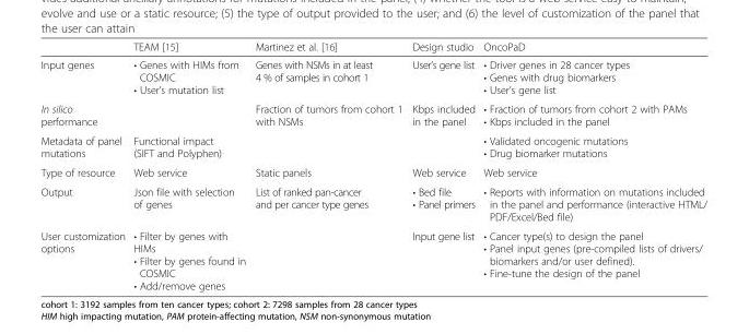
<table><thead><tr><td></td><td>TEAM [15]</td><td>Martinez et al. [16]</td><td>Design studio</td><td>OncoPaD</td></tr></thead><tbody><tr><td>Input genes</td><td>• Genes with HIMs from COSMIC • User’s mutation list</td><td>Genes with NSMs in at least 4 % of samples in cohort 1</td><td>User’s gene list</td><td>• Driver genes in 28 cancer types • Genes with drug biomarkers • User’s gene list</td></tr><tr><td>In silico performance</td><td></td><td>Fraction of tumors from cohort 1 with NSMs</td><td>Kbps included in the panel</td><td>• Fraction of tumors from cohort 2 with PAMs • Kbps included in the panel</td></tr><tr><td>Metadata of panel mutations</td><td>Functional impact (SIFT and Polyphen)</td><td></td><td></td><td>• Validated oncogenic mutations • Drug biomarker mutations</td></tr><tr><td>Type of resource</td><td>Web service</td><td>Static panels</td><td>Web service</td><td>Web service</td></tr><tr><td>Output</td><td>Json file with selection of genes</td><td>List of ranked pan-cancer and per cancer type genes</td><td>• Bed file • Panel primers</td><td>• Reports with information on mutations included in the panel and performance (interactive HTML/ PDF/Excel/Bed file)</td></tr><tr><td>User customization options</td><td>• Filter by genes with HIMs • Filter by genes found in COSMIC • Add/remove genes</td><td></td><td>Input gene list</td><td>• Cancer type(s) to design the panel • Panel input genes (pre-compiled lists of drivers/ biomarkers and/or user defined). • Fine-tune the design of the panel</td></tr></tbody></table>